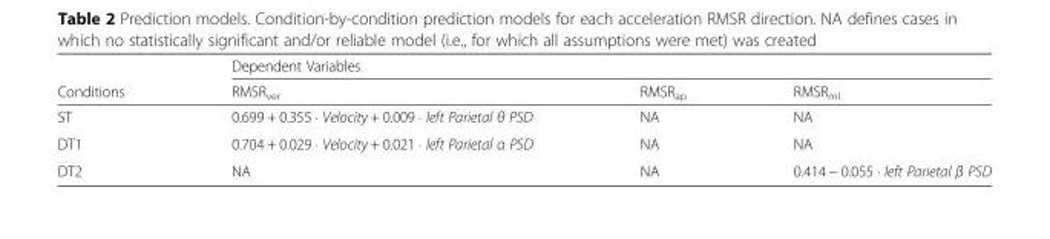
<table><thead><tr><td rowspan="2">Conditions</td><td colspan="3">Dependent Variables</td></tr><tr><td>RMSR<sub>ver</sub></td><td>RMSR<sub>ap</sub></td><td>RMSR<sub>ml</sub></td></tr></thead><tbody><tr><td>ST</td><td>0.699 + 0.355 ⋅ Velocity + 0.009 ⋅ left Parietal θ PSD</td><td>NA</td><td>NA</td></tr><tr><td>DT1</td><td>0.704 + 0.029 ⋅ Velocity + 0.021 ⋅ left Parietal α PSD</td><td>NA</td><td>NA</td></tr><tr><td>DT2</td><td>NA</td><td>NA</td><td>0.414 − 0.055 ⋅ left Parietal β PSD</td></tr></tbody></table>